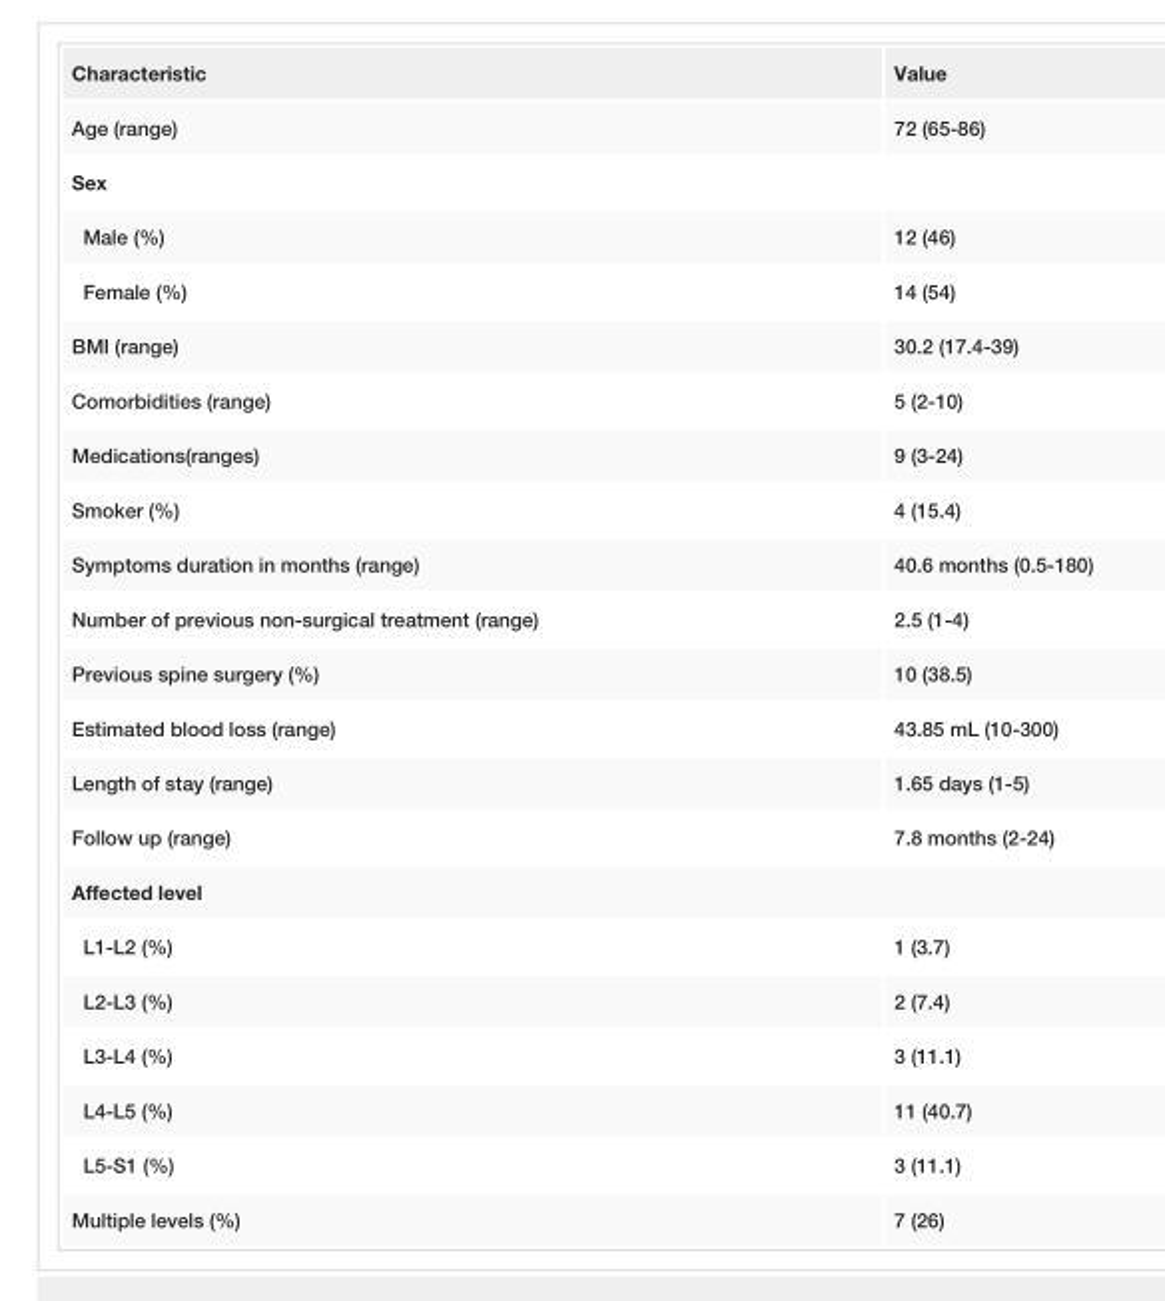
<table><tbody><tr><td>Characteristic</td><td>Value</td></tr><tr><td>Age (range)</td><td>72 (65-86)</td></tr><tr><td colspan="2">Sex</td></tr><tr><td>Male (%)</td><td>12 (46)</td></tr><tr><td>Female (%)</td><td>14 (54)</td></tr><tr><td>BMI (range)</td><td>30.2 (17.4-39)</td></tr><tr><td>Comorbidities (range)</td><td>5 (2-10)</td></tr><tr><td>Medications(ranges)</td><td>9 (3-24)</td></tr><tr><td>Smoker (%)</td><td>4 (15.4)</td></tr><tr><td>Symptoms duration in months (range)</td><td>40.6 months (0.5-180)</td></tr><tr><td>Number of previous non-surgical treatment (range)</td><td>2.5 (1-4)</td></tr><tr><td>Previous spine surgery (%)</td><td>10 (38.5)</td></tr><tr><td>Estimated blood loss (range)</td><td>43.85 mL (10-300)</td></tr><tr><td>Length of stay (range)</td><td>1.65 days (1-5)</td></tr><tr><td>Follow up (range)</td><td>7.8 months (2-24)</td></tr><tr><td colspan="2">Affected level</td></tr><tr><td>L1-L2 (%)</td><td>1 (3.7)</td></tr><tr><td>L2-L3 (%)</td><td>2 (7.4)</td></tr><tr><td>L3-L4 (%)</td><td>3 (11.1)</td></tr><tr><td>L4-L5 (%)</td><td>11 (40.7)</td></tr><tr><td>L5-S1 (%)</td><td>3 (11.1)</td></tr><tr><td>Multiple levels (%)</td><td>7 (26)</td></tr></tbody></table>